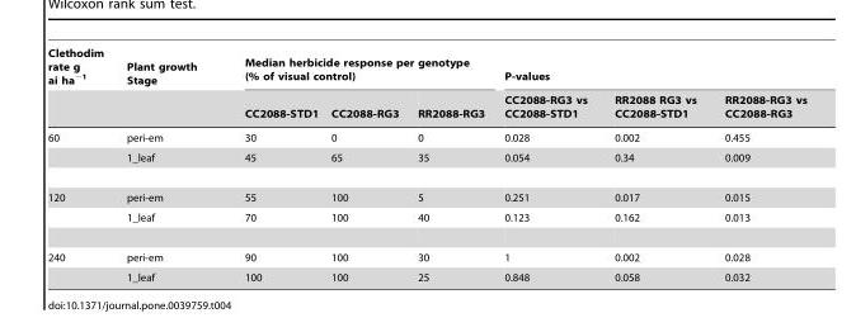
<table><thead><tr><td rowspan="2">Clethodim rate g ai ha<sup>−1</sup></td><td rowspan="2">Plant growth Stage</td><td colspan="3">Median herbicide response per genotype (% of visual control)</td><td colspan="3">P-values</td></tr><tr><td>CC2088-STD1</td><td>CC2088-RG3</td><td>RR2088-RG3</td><td>CC2088-RG3 vs CC2088-STD1</td><td>RR2088 RG3 vs CC2088-STD1</td><td>RR2088-RG3 vs CC2088-RG3</td></tr></thead><tbody><tr><td rowspan="2">60</td><td>peri-em</td><td>30</td><td>0</td><td>0</td><td>0.028</td><td>0.002</td><td>0.455</td></tr><tr><td>1_leaf</td><td>45</td><td>65</td><td>35</td><td>0.054</td><td>0.34</td><td>0.009</td></tr><tr><td rowspan="2">120</td><td>peri-em</td><td>55</td><td>100</td><td>5</td><td>0.251</td><td>0.017</td><td>0.015</td></tr><tr><td>1_leaf</td><td>70</td><td>100</td><td>40</td><td>0.123</td><td>0.162</td><td>0.013</td></tr><tr><td rowspan="2">240</td><td>peri-em</td><td>90</td><td>100</td><td>30</td><td>1</td><td>0.002</td><td>0.028</td></tr><tr><td>1_leaf</td><td>100</td><td>100</td><td>25</td><td>0.848</td><td>0.058</td><td>0.032</td></tr></tbody></table>